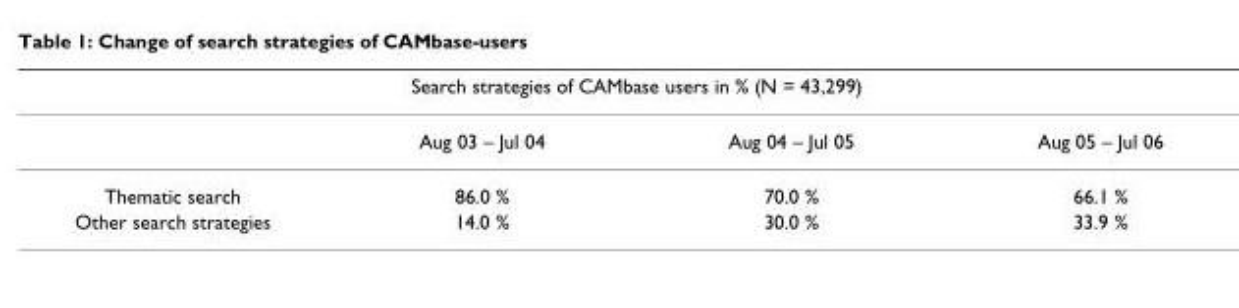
<table><thead><tr><td colspan="4">Search strategies of CAMbase users in % (N = 43,299)</td></tr><tr><td></td><td>Aug 03 – Jul 04</td><td>Aug 04 – Jul 05</td><td>Aug 05 – Jul 06</td></tr></thead><tbody><tr><td>Thematic search</td><td>86.0 %</td><td>70.0 %</td><td>66.1 %</td></tr><tr><td>Other search strategies</td><td>14.0 %</td><td>30.0 %</td><td>33.9 %</td></tr></tbody></table>